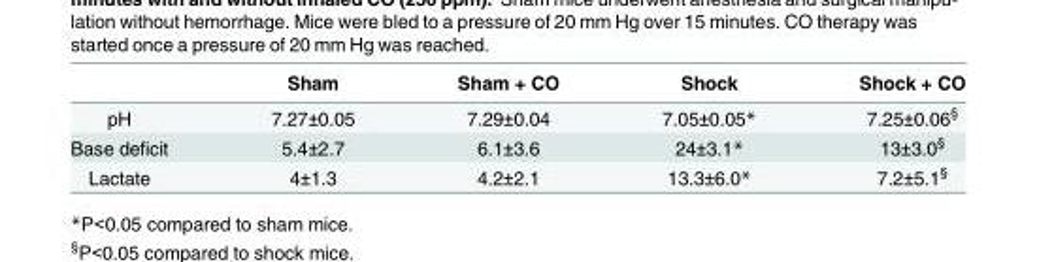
<table><thead><tr><td></td><td>Sham</td><td>Sham + CO</td><td>Shock</td><td>Shock + CO</td></tr></thead><tbody><tr><td>pH</td><td>7.27±0.05</td><td>7.29±0.04</td><td>7.05±0.05*</td><td>7.25±0.06<sup>§</sup></td></tr><tr><td>Base deficit</td><td>5.4±2.7</td><td>6.1±3.6</td><td>24±3.1*</td><td>13±3.0<sup>§</sup></td></tr><tr><td>Lactate</td><td>4±1.3</td><td>4.2±2.1</td><td>13.3±6.0*</td><td>7.2±5.1<sup>§</sup></td></tr></tbody></table>